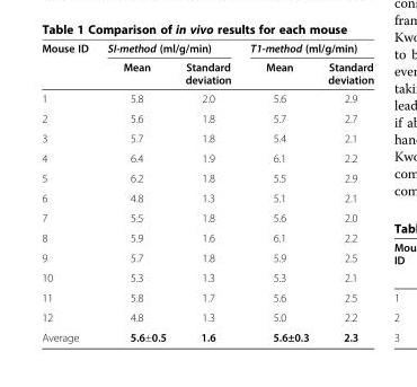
<table><thead><tr><td rowspan="2">Mouse ID</td><td colspan="2">SI-method (ml/g/min)</td><td colspan="2">T1-method (ml/g/min)</td></tr><tr><td>Mean</td><td>Standard deviation</td><td>Mean</td><td>Standard deviation</td></tr></thead><tbody><tr><td>1</td><td>5.8</td><td>2.0</td><td>5.6</td><td>2.9</td></tr><tr><td>2</td><td>5.6</td><td>1.8</td><td>5.7</td><td>2.7</td></tr><tr><td>3</td><td>5.7</td><td>1.8</td><td>5.4</td><td>2.1</td></tr><tr><td>4</td><td>6.4</td><td>1.9</td><td>6.1</td><td>2.2</td></tr><tr><td>5</td><td>6.2</td><td>1.8</td><td>5.5</td><td>2.9</td></tr><tr><td>6</td><td>4.8</td><td>1.3</td><td>5.1</td><td>2.1</td></tr><tr><td>7</td><td>5.5</td><td>1.8</td><td>5.6</td><td>2.0</td></tr><tr><td>8</td><td>5.9</td><td>1.6</td><td>6.1</td><td>2.2</td></tr><tr><td>9</td><td>5.7</td><td>1.8</td><td>5.9</td><td>2.5</td></tr><tr><td>10</td><td>5.3</td><td>1.3</td><td>5.3</td><td>2.1</td></tr><tr><td>11</td><td>5.8</td><td>1.7</td><td>5.6</td><td>2.5</td></tr><tr><td>12</td><td>4.8</td><td>1.3</td><td>5.0</td><td>2.2</td></tr><tr><td>Average</td><td>5.6±0.5</td><td>1.6</td><td>5.6±0.3</td><td>2.3</td></tr></tbody></table>